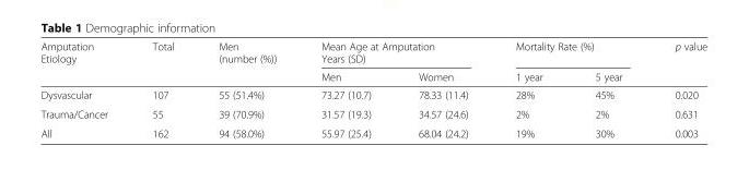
<table><thead><tr><td rowspan="2">Amputation Etiology</td><td rowspan="2">Total</td><td rowspan="2">Men (number (%))</td><td colspan="2">Mean Age at Amputation Years (SD)</td><td colspan="2">Mortality Rate (%)</td><td rowspan="2">p value</td></tr><tr><td>Men</td><td>Women</td><td>1 year</td><td>5 year</td></tr></thead><tbody><tr><td>Dysvascular</td><td>107</td><td>55 (51.4%)</td><td>73.27 (10.7)</td><td>78.33 (11.4)</td><td>28%</td><td>45%</td><td>0.020</td></tr><tr><td>Trauma/Cancer</td><td>55</td><td>39 (70.9%)</td><td>31.57 (19.3)</td><td>34.57 (24.6)</td><td>2%</td><td>2%</td><td>0.631</td></tr><tr><td>All</td><td>162</td><td>94 (58.0%)</td><td>55.97 (25.4)</td><td>68.04 (24.2)</td><td>19%</td><td>30%</td><td>0.003</td></tr></tbody></table>